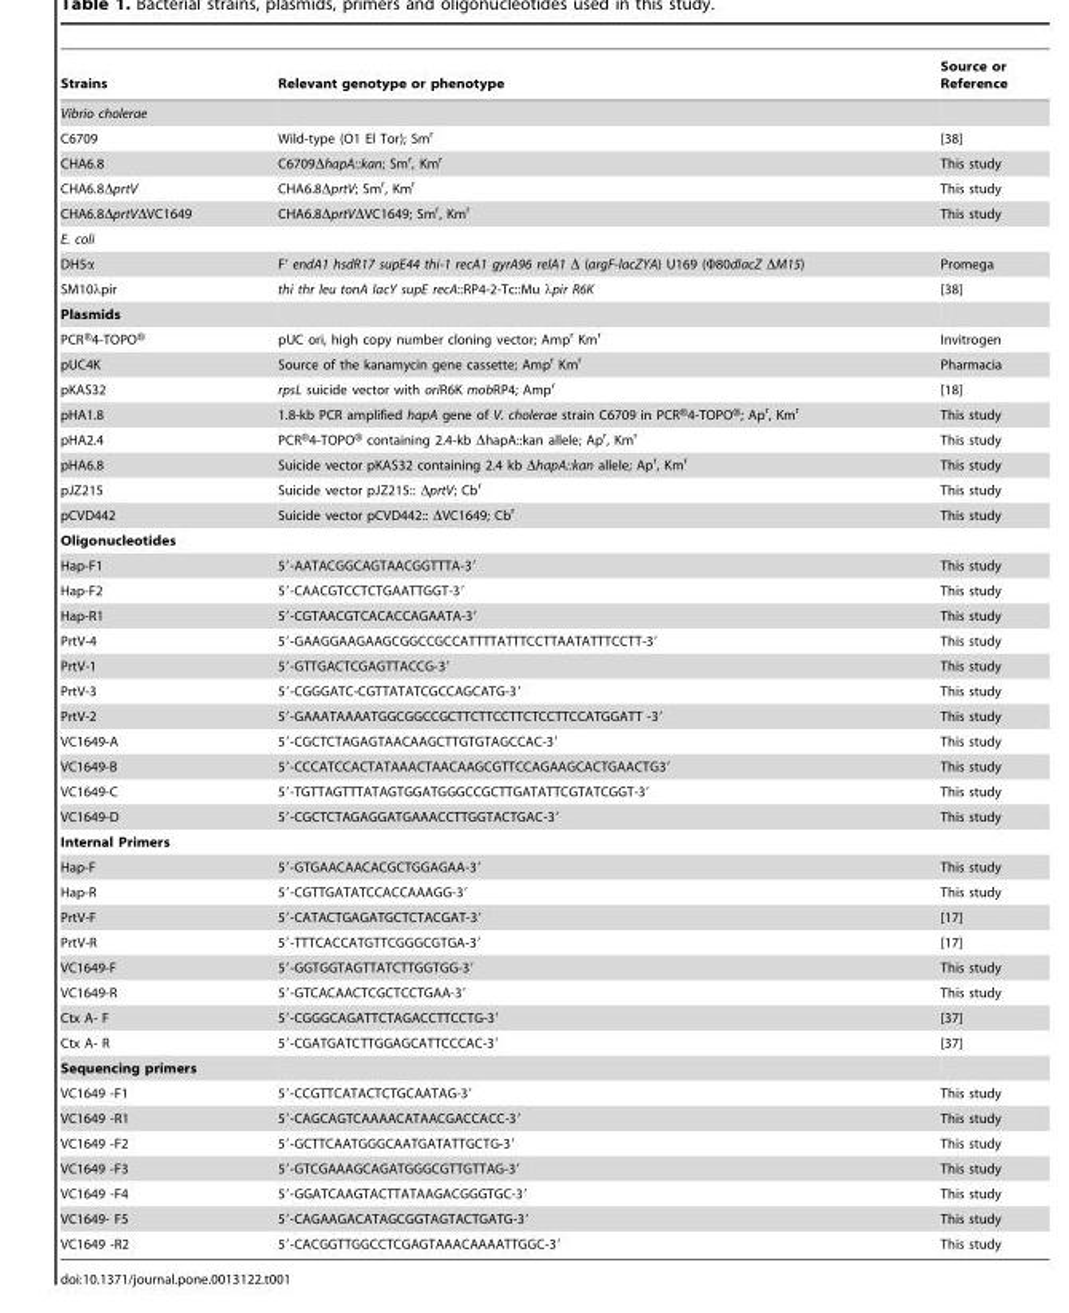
<table><thead><tr><td>Strains</td><td>Relevant genotype or phenotype</td><td>Source or Reference</td></tr></thead><tbody><tr><td colspan="3">Vibrio cholerae</td></tr><tr><td>C6709</td><td>Wild-type (O1 El Tor); Sm<sup>r</sup></td><td>[38]</td></tr><tr><td>CHA6.8</td><td>C6709ΔhapA::kan; Sm<sup>r</sup>, Km<sup>r</sup></td><td>This study</td></tr><tr><td>CHA6.8ΔprtV</td><td>CHA6.8ΔprtV; Sm<sup>r</sup>, Km<sup>r</sup></td><td>This study</td></tr><tr><td>CHA6.8ΔprtVΔVC1649</td><td>CHA6.8ΔprtVΔVC1649; Sm<sup>r</sup>, Km<sup>r</sup></td><td>This study</td></tr><tr><td colspan="3">E. coli</td></tr><tr><td>DH5α</td><td>F’ endA1 hsdR17 supE44 thi-1 recA1 gyrA96 relA1 Δ (argF-lacZYA) U169 (Φ80dlacZ ΔM15)</td><td>Promega</td></tr><tr><td>SM10λpir</td><td>thi thr leu tonA lacY supE recA::RP4-2-Tc::Mu λpir R6K</td><td>[38]</td></tr><tr><td colspan="3">Plasmids</td></tr><tr><td>PCR®4-TOPO®</td><td>pUC ori, high copy number cloning vector; Amp<sup>r</sup> Km<sup>r</sup></td><td>Invitrogen</td></tr><tr><td>pUC4K</td><td>Source of the kanamycin gene cassette; Amp<sup>r</sup> Km<sup>r</sup></td><td>Pharmacia</td></tr><tr><td>pKAS32</td><td>rpsL suicide vector with oriR6K mobRP4; Amp<sup>r</sup></td><td>[18]</td></tr><tr><td>pHA1.8</td><td>1.8-kb PCR amplified hapA gene of V. cholerae strain C6709 in PCR®4-TOPO®; Ap<sup>r</sup>, Km<sup>r</sup></td><td>This study</td></tr><tr><td>pHA2.4</td><td>PCR®4-TOPO® containing 2.4-kb ΔhapA::kan allele; Ap<sup>r</sup>, Km<sup>r</sup></td><td>This study</td></tr><tr><td>pHA6.8</td><td>Suicide vector pKAS32 containing 2.4 kb ΔhapA::kan allele; Ap<sup>r</sup>, Km<sup>r</sup></td><td>This study</td></tr><tr><td>pJZ215</td><td>Suicide vector pJZ215:: ΔprtV; Cb<sup>r</sup></td><td>This study</td></tr><tr><td>pCVD442</td><td>Suicide vector pCVD442:: ΔVC1649; Cb<sup>r</sup></td><td>This study</td></tr><tr><td colspan="3">Oligonucleotides</td></tr><tr><td>Hap-F1</td><td>5′-AATACGGCAGTAACGGTTTA-3′</td><td>This study</td></tr><tr><td>Hap-F2</td><td>5′-CAACGTCCTCTGAATTGGT-3′</td><td>This study</td></tr><tr><td>Hap-R1</td><td>5′-CGTAACGTCACACCAGAATA-3′</td><td>This study</td></tr><tr><td>PrtV-4</td><td>5′-GAAGGAAGAAGCGGCCGCCATTTTATTTCCTTAATATTTCCTT-3′</td><td>This study</td></tr><tr><td>PrtV-1</td><td>5′-GTTGACTCGAGTTACCG-3′</td><td>This study</td></tr><tr><td>PrtV-3</td><td>5′-CGGGATC-CGTTATATCGCCAGCATG-3′</td><td>This study</td></tr><tr><td>PrtV-2</td><td>5′-GAAATAAAATGGCGGCCGCTTCTTCCTTCTCCTTCCATGGATT -3′</td><td>This study</td></tr><tr><td>VC1649-A</td><td>5′-CGCTCTAGAGTAACAAGCTTGTGTAGCCAC-3′</td><td>This study</td></tr><tr><td>VC1649-B</td><td>5′-CCCATCCACTATAAACTAACAAGCGTTCCAGAAGCACTGAACTG3′</td><td>This study</td></tr><tr><td>VC1649-C</td><td>5′-TGTTAGTTTATAGTGGATGGGCCGCTTGATATTCGTATCGGT-3′</td><td>This study</td></tr><tr><td>VC1649-D</td><td>5′-CGCTCTAGAGGATGAAACCTTGGTACTGAC-3′</td><td>This study</td></tr><tr><td colspan="3">Internal Primers</td></tr><tr><td>Hap-F</td><td>5′-GTGAACAACACGCTGGAGAA-3′</td><td>This study</td></tr><tr><td>Hap-R</td><td>5′-CGTTGATATCCACCAAAGG-3′</td><td>This study</td></tr><tr><td>PrtV-F</td><td>5′-CATACTGAGATGCTCTACGAT-3′</td><td>[17]</td></tr><tr><td>PrtV-R</td><td>5′-TTTCACCATGTTCGGGCGTGA-3′</td><td>[17]</td></tr><tr><td>VC1649-F</td><td>5′-GGTGGTAGTTATCTTGGTGG-3′</td><td>This study</td></tr><tr><td>VC1649-R</td><td>5′-GTCACAACTCGCTCCTGAA-3′</td><td>This study</td></tr><tr><td>Ctx A- F</td><td>5′-CGGGCAGATTCTAGACCTTCCTG-3′</td><td>[37]</td></tr><tr><td>Ctx A- R</td><td>5′-CGATGATCTTGGAGCATTCCCAC-3′</td><td>[37]</td></tr><tr><td colspan="3">Sequencing primers</td></tr><tr><td>VC1649 -F1</td><td>5′-CCGTTCATACTCTGCAATAG-3′</td><td>This study</td></tr><tr><td>VC1649 -R1</td><td>5′-CAGCAGTCAAAACATAACGACCACC-3′</td><td>This study</td></tr><tr><td>VC1649 -F2</td><td>5′-GCTTCAATGGGCAATGATATTGCTG-3′</td><td>This study</td></tr><tr><td>VC1649 -F3</td><td>5′-GTCGAAAGCAGATGGGCGTTGTTAG-3′</td><td>This study</td></tr><tr><td>VC1649 -F4</td><td>5′-GGATCAAGTACTTATAAGACGGGTGC-3′</td><td>This study</td></tr><tr><td>VC1649- F5</td><td>5′-CAGAAGACATAGCGGTAGTACTGATG-3′</td><td>This study</td></tr><tr><td>VC1649 -R2</td><td>5′-CACGGTTGGCCTCGAGTAAACAAAATTGGC-3′</td><td>This study</td></tr></tbody></table>